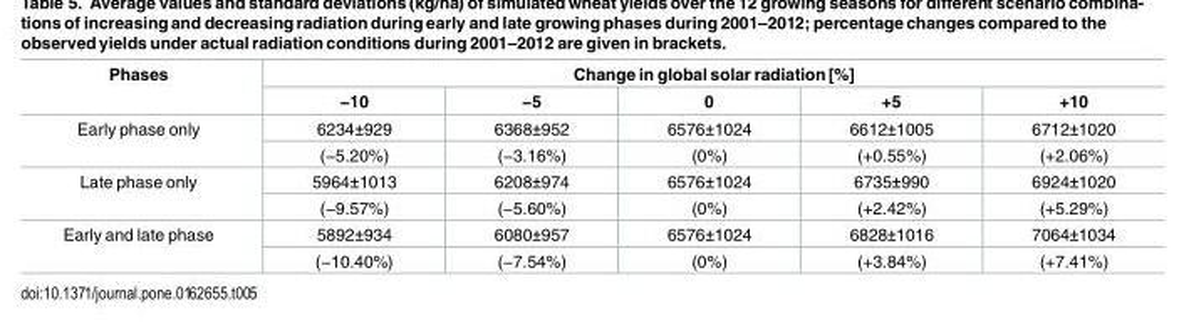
<table><thead><tr><td rowspan="2">Phases</td><td colspan="5">Change in global solar radiation [%]</td></tr><tr><td>−10</td><td>−5</td><td>0</td><td>+5</td><td>+10</td></tr></thead><tbody><tr><td rowspan="2">Early phase only</td><td>6234±929</td><td>6368±952</td><td>6576±1024</td><td>6612±1005</td><td>6712±1020</td></tr><tr><td>(−5.20%)</td><td>(−3.16%)</td><td>(0%)</td><td>(+0.55%)</td><td>(+2.06%)</td></tr><tr><td rowspan="2">Late phase only</td><td>5964±1013</td><td>6208±974</td><td>6576±1024</td><td>6735±990</td><td>6924±1020</td></tr><tr><td>(−9.57%)</td><td>(−5.60%)</td><td>(0%)</td><td>(+2.42%)</td><td>(+5.29%)</td></tr><tr><td rowspan="2">Early and late phase</td><td>5892±934</td><td>6080±957</td><td>6576±1024</td><td>6828±1016</td><td>7064±1034</td></tr><tr><td>(−10.40%)</td><td>(−7.54%)</td><td>(0%)</td><td>(+3.84%)</td><td>(+7.41%)</td></tr></tbody></table>